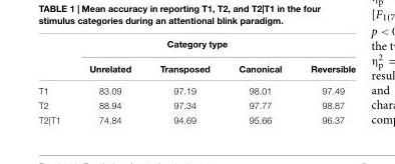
<table><thead><tr><td colspan="5">Category type</td></tr><tr><td></td><td>Unrelated</td><td>Transposed</td><td>Canonical</td><td>Reversible</td></tr></thead><tbody><tr><td>T1</td><td>83.09</td><td>97.19</td><td>98.01</td><td>97.49</td></tr><tr><td>T2</td><td>88.94</td><td>97.34</td><td>97.77</td><td>98.87</td></tr><tr><td>T2|T1</td><td>74.84</td><td>94.69</td><td>95.66</td><td>96.37</td></tr></tbody></table>